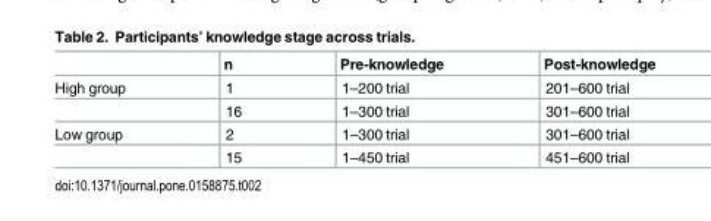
<table><thead><tr><td></td><td>n</td><td>Pre-knowledge</td><td>Post-knowledge</td></tr></thead><tbody><tr><td rowspan="2">High group</td><td>1</td><td>1–200 trial</td><td>201–600 trial</td></tr><tr><td>16</td><td>1–300 trial</td><td>301–600 trial</td></tr><tr><td rowspan="2">Low group</td><td>2</td><td>1–300 trial</td><td>301–600 trial</td></tr><tr><td>15</td><td>1–450 trial</td><td>451–600 trial</td></tr></tbody></table>